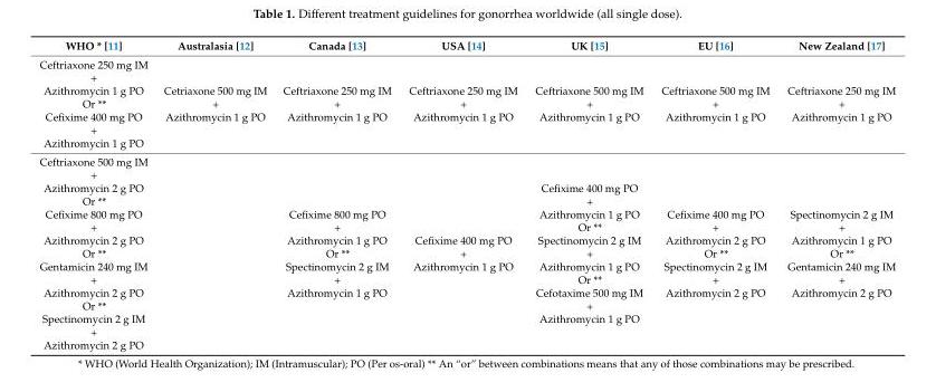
<table><thead><tr><td>WHO * [11]</td><td>Australasia [12]</td><td>Canada [13]</td><td>USA [14]</td><td>UK [15]</td><td>EU [16]</td><td>New Zealand [17]</td></tr></thead><tbody><tr><td>Ceftriaxone 250 mg IM + Azithromycin 1 g PO Or ** Cefixime 400 mg PO + Azithromycin 1 g PO</td><td>Cetriaxone 500 mg IM + Azithromycin 1 g PO</td><td>Ceftriaxone 250 mg IM + Azithromycin 1 g PO</td><td>Ceftriaxone 250 mg IM + Azithromycin 1 g PO</td><td>Ceftriaxone 500 mg IM + Azithromycin 1 g PO</td><td>Ceftriaxone 500 mg IM + Azithromycin 1 g PO</td><td>Ceftriaxone 250 mg IM + Azithromycin 1 g PO</td></tr><tr><td>Ceftriaxone 500 mg IM + Azithromycin 2 g PO Or ** Cefixime 800 mg PO + Azithromycin 2 g PO Or ** Gentamicin 240 mg IM + Azithromycin 2 g PO Or ** Spectinomycin 2 g IM + Azithromycin 2 g PO</td><td></td><td>Cefixime 800 mg PO + Azithromycin 1 g PO Or ** Spectinomycin 2 g IM + Azithromycin 1 g PO</td><td>Cefixime 400 mg PO + Azithromycin 1 g PO</td><td>Cefixime 400 mg PO + Azithromycin 1 g PO Or ** Spectinomycin 2 g IM + Azithromycin 1 g PO Or ** Cefotaxime 500 mg IM + Azithromycin 1 g PO</td><td>Cefixime 400 mg PO + Azithromycin 2 g PO Or ** Spectinomycin 2 g IM + Azithromycin 2 g PO</td><td>Spectinomycin 2 g IM + Azithromycin 1 g PO Or ** Gentamicin 240 mg IM + Azithromycin 2 g PO</td></tr></tbody></table>